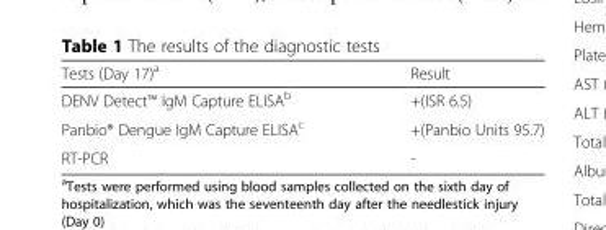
<table><thead><tr><td>Tests (Day 17)<sup>a</sup></td><td>Result</td></tr></thead><tbody><tr><td>DENV Detect™ IgM Capture ELISA<sup>b</sup></td><td>+(ISR 6.5)</td></tr><tr><td>Panbio® Dengue IgM Capture ELISA<sup>c</sup></td><td>+(Panbio Units 95.7)</td></tr><tr><td>RT-PCR</td><td>-</td></tr></tbody></table>